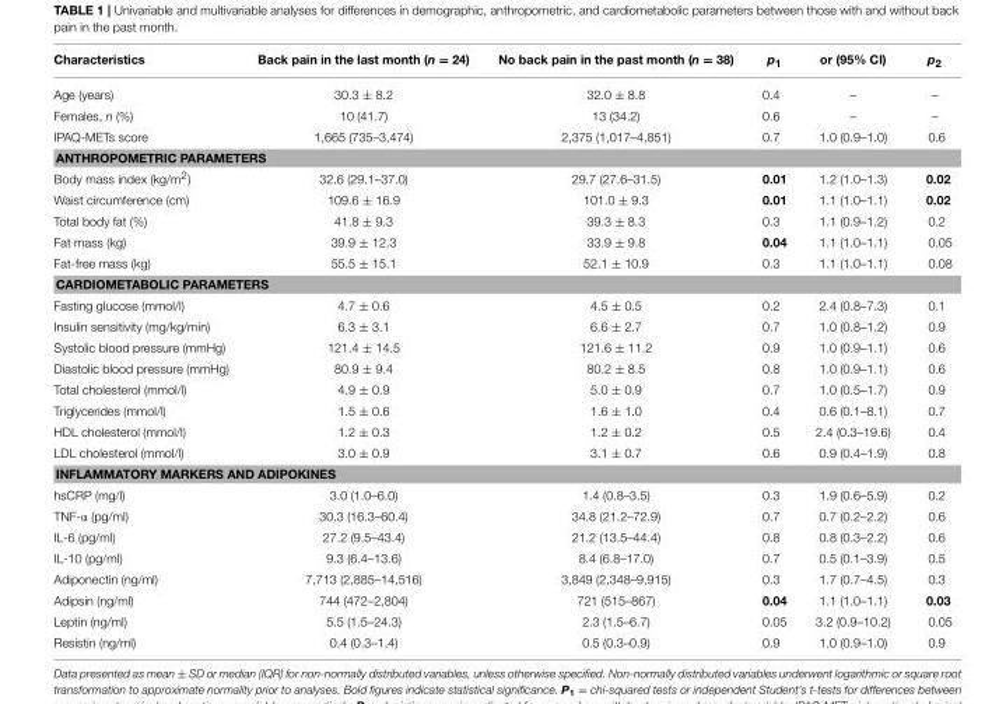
<table><thead><tr><td>Characteristics</td><td>Back pain in the last month (n = 24)</td><td>No back pain in the past month (n = 38)</td><td>p<sub>1</sub></td><td>or (95% CI)</td><td>p<sub>2</sub></td></tr></thead><tbody><tr><td>Age (years)</td><td>30.3 ± 8.2</td><td>32.0 ± 8.8</td><td>0.4</td><td>–</td><td>–</td></tr><tr><td>Females, n (%)</td><td>10 (41.7)</td><td>13 (34.2)</td><td>0.6</td><td>–</td><td>–</td></tr><tr><td>IPAQ-METs score</td><td>1,665 (735–3,474)</td><td>2,375 (1,017–4,851)</td><td>0.7</td><td>1.0 (0.9–1.0)</td><td>0.6</td></tr><tr><td colspan="6">ANTHROPOMETRIC PARAMETERS</td></tr><tr><td>Body mass index (kg/m<sup>2</sup>)</td><td>32.6 (29.1–37.0)</td><td>29.7 (27.6–31.5)</td><td>0.01</td><td>1.2 (1.0–1.3)</td><td>0.02</td></tr><tr><td>Waist circumference (cm)</td><td>109.6 ± 16.9</td><td>101.0 ± 9.3</td><td>0.01</td><td>1.1 (1.0–1.1)</td><td>0.02</td></tr><tr><td>Total body fat (%)</td><td>41.8 ± 9.3</td><td>39.3 ± 8.3</td><td>0.3</td><td>1.1 (0.9–1.2)</td><td>0.2</td></tr><tr><td>Fat mass (kg)</td><td>39.9 ± 12.3</td><td>33.9 ± 9.8</td><td>0.04</td><td>1.1 (1.0–1.1)</td><td>0.05</td></tr><tr><td>Fat-free mass (kg)</td><td>55.5 ± 15.1</td><td>52.1 ± 10.9</td><td>0.3</td><td>1.1 (1.0–1.1)</td><td>0.08</td></tr><tr><td colspan="6">CARDIOMETABOLIC PARAMETERS</td></tr><tr><td>Fasting glucose (mmol/l)</td><td>4.7 ± 0.6</td><td>4.5 ± 0.5</td><td>0.2</td><td>2.4 (0.8–7.3)</td><td>0.1</td></tr><tr><td>Insulin sensitivity (mg/kg/min)</td><td>6.3 ± 3.1</td><td>6.6 ± 2.7</td><td>0.7</td><td>1.0 (0.8–1.2)</td><td>0.9</td></tr><tr><td>Systolic blood pressure (mmHg)</td><td>121.4 ± 14.5</td><td>121.6 ± 11.2</td><td>0.9</td><td>1.0 (0.9–1.1)</td><td>0.6</td></tr><tr><td>Diastolic blood pressure (mmHg)</td><td>80.9 ± 9.4</td><td>80.2 ± 8.5</td><td>0.8</td><td>1.0 (0.9–1.1)</td><td>0.6</td></tr><tr><td>Total cholesterol (mmol/l)</td><td>4.9 ± 0.9</td><td>5.0 ± 0.9</td><td>0.7</td><td>1.0 (0.5–1.7)</td><td>0.9</td></tr><tr><td>Triglycerides (mmol/l)</td><td>1.5 ± 0.6</td><td>1.6 ± 1.0</td><td>0.4</td><td>0.6 (0.1–8.1)</td><td>0.7</td></tr><tr><td>HDL cholesterol (mmol/l)</td><td>1.2 ± 0.3</td><td>1.2 ± 0.2</td><td>0.5</td><td>2.4 (0.3–19.6)</td><td>0.4</td></tr><tr><td>LDL cholesterol (mmol/l)</td><td>3.0 ± 0.9</td><td>3.1 ± 0.7</td><td>0.6</td><td>0.9 (0.4–1.9)</td><td>0.8</td></tr><tr><td colspan="6">INFLAMMATORY MARKERS AND ADIPOKINES</td></tr><tr><td>hsCRP (mg/l)</td><td>3.0 (1.0–6.0)</td><td>1.4 (0.8–3.5)</td><td>0.3</td><td>1.9 (0.6–5.9)</td><td>0.2</td></tr><tr><td>TNF-α (pg/ml)</td><td>30.3 (16.3–60.4)</td><td>34.8 (21.2–72.9)</td><td>0.7</td><td>0.7 (0.2–2.2)</td><td>0.6</td></tr><tr><td>IL-6 (pg/ml)</td><td>27.2 (9.5–43.4)</td><td>21.2 (13.5–44.4)</td><td>0.8</td><td>0.8 (0.3–2.2)</td><td>0.6</td></tr><tr><td>IL-10 (pg/ml)</td><td>9.3 (6.4–13.6)</td><td>8.4 (6.8–17.0)</td><td>0.7</td><td>0.5 (0.1–3.9)</td><td>0.5</td></tr><tr><td>Adiponectin (ng/ml)</td><td>7,713 (2,885–14,516)</td><td>3,849 (2,348–9,915)</td><td>0.3</td><td>1.7 (0.7–4.5)</td><td>0.3</td></tr><tr><td>Adipsin (ng/ml)</td><td>744 (472–2,804)</td><td>721 (515–867)</td><td>0.04</td><td>1.1 (1.0–1.1)</td><td>0.03</td></tr><tr><td>Leptin (ng/ml)</td><td>5.5 (1.5–24.3)</td><td>2.3 (1.5–6.7)</td><td>0.05</td><td>3.2 (0.9–10.2)</td><td>0.05</td></tr><tr><td>Resistin (ng/ml)</td><td>0.4 (0.3–1.4)</td><td>0.5 (0.3–0.9)</td><td>0.9</td><td>1.0 (0.9–1.0)</td><td>0.9</td></tr></tbody></table>